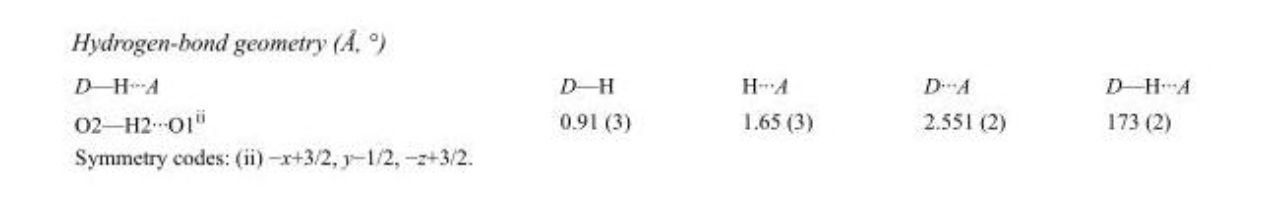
<table><tbody><tr><td>D—H···A</td><td>D—H</td><td>H···A</td><td>D···A</td><td>D—H···A</td></tr><tr><td>O2—H2···O1<sup>ii</sup></td><td>0.91 (3)</td><td>1.65 (3)</td><td>2.551 (2)</td><td>173 (2)</td></tr></tbody></table>